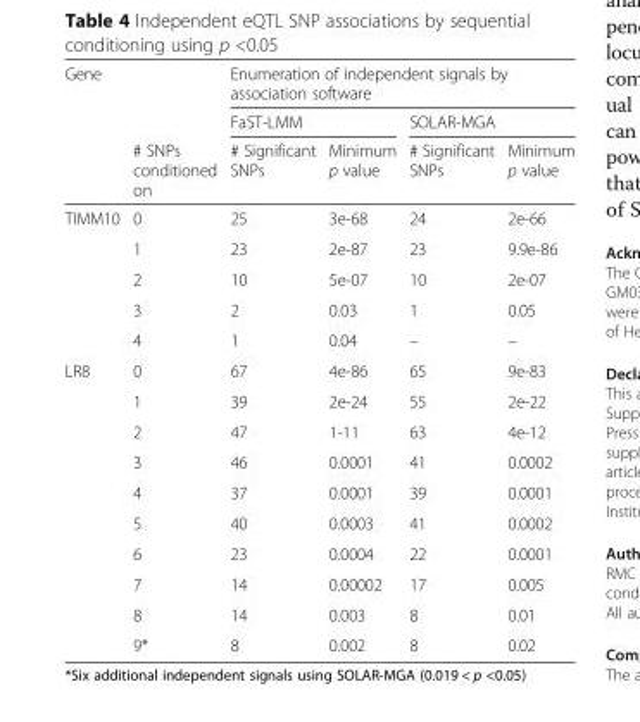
<table><thead><tr><td rowspan="3">Gene</td><td rowspan="3"># SNPs conditioned on</td><td colspan="4">Enumeration of independent signals by association software</td></tr><tr><td colspan="2">FaST-LMM</td><td colspan="2">SOLAR-MGA</td></tr><tr><td># Significant SNPs</td><td>Minimum p value</td><td># Significant SNPs</td><td>Minimum p value</td></tr></thead><tbody><tr><td rowspan="5">TIMM10</td><td>0</td><td>25</td><td>3e-68</td><td>24</td><td>2e-66</td></tr><tr><td>1</td><td>23</td><td>2e-87</td><td>23</td><td>9.9e-86</td></tr><tr><td>2</td><td>10</td><td>5e-07</td><td>10</td><td>2e-07</td></tr><tr><td>3</td><td>2</td><td>0.03</td><td>1</td><td>0.05</td></tr><tr><td>4</td><td>1</td><td>0.04</td><td>–</td><td>–</td></tr><tr><td rowspan="10">LR8</td><td>0</td><td>67</td><td>4e-86</td><td>65</td><td>9e-83</td></tr><tr><td>1</td><td>39</td><td>2e-24</td><td>55</td><td>2e-22</td></tr><tr><td>2</td><td>47</td><td>1-11</td><td>63</td><td>4e-12</td></tr><tr><td>3</td><td>46</td><td>0.0001</td><td>41</td><td>0.0002</td></tr><tr><td>4</td><td>37</td><td>0.0001</td><td>39</td><td>0.0001</td></tr><tr><td>5</td><td>40</td><td>0.0003</td><td>41</td><td>0.0002</td></tr><tr><td>6</td><td>23</td><td>0.0004</td><td>22</td><td>0.0001</td></tr><tr><td>7</td><td>14</td><td>0.00002</td><td>17</td><td>0.005</td></tr><tr><td>8</td><td>14</td><td>0.003</td><td>8</td><td>0.01</td></tr><tr><td>9*</td><td>8</td><td>0.002</td><td>8</td><td>0.02</td></tr></tbody></table>